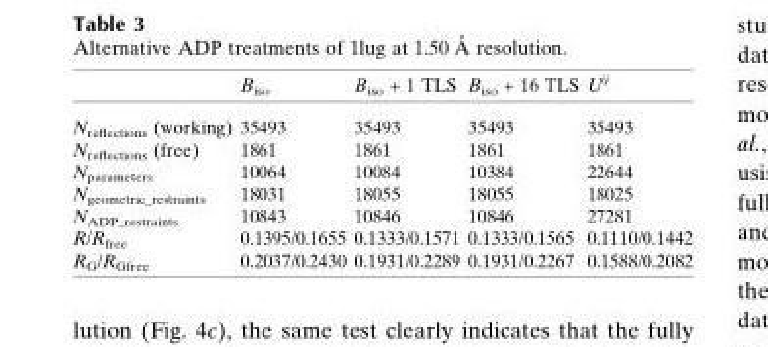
<table><thead><tr><td></td><td>B<sub>iso</sub></td><td>B<sub>iso</sub> + 1 TLS</td><td>B<sub>iso</sub> + 16 TLS</td><td>U<sup>ij</sup></td></tr></thead><tbody><tr><td>N<sub>reflections</sub> (working)</td><td>35493</td><td>35493</td><td>35493</td><td>35493</td></tr><tr><td>N<sub>reflections</sub> (free)</td><td>1861</td><td>1861</td><td>1861</td><td>1861</td></tr><tr><td>N<sub>parameters</sub></td><td>10064</td><td>10084</td><td>10384</td><td>22644</td></tr><tr><td>N<sub>geometric_restraints</sub></td><td>18031</td><td>18055</td><td>18055</td><td>18025</td></tr><tr><td>N<sub>ADP_restraints</sub></td><td>10843</td><td>10846</td><td>10846</td><td>27281</td></tr><tr><td>R/R<sub>free</sub></td><td>0.1395/0.1655</td><td>0.1333/0.1571</td><td>0.1333/0.1565</td><td>0.1110/0.1442</td></tr><tr><td>R<sub>G</sub>/R<sub>Gfree</sub></td><td>0.2037/0.2430</td><td>0.1931/0.2289</td><td>0.1931/0.2267</td><td>0.1588/0.2082</td></tr></tbody></table>